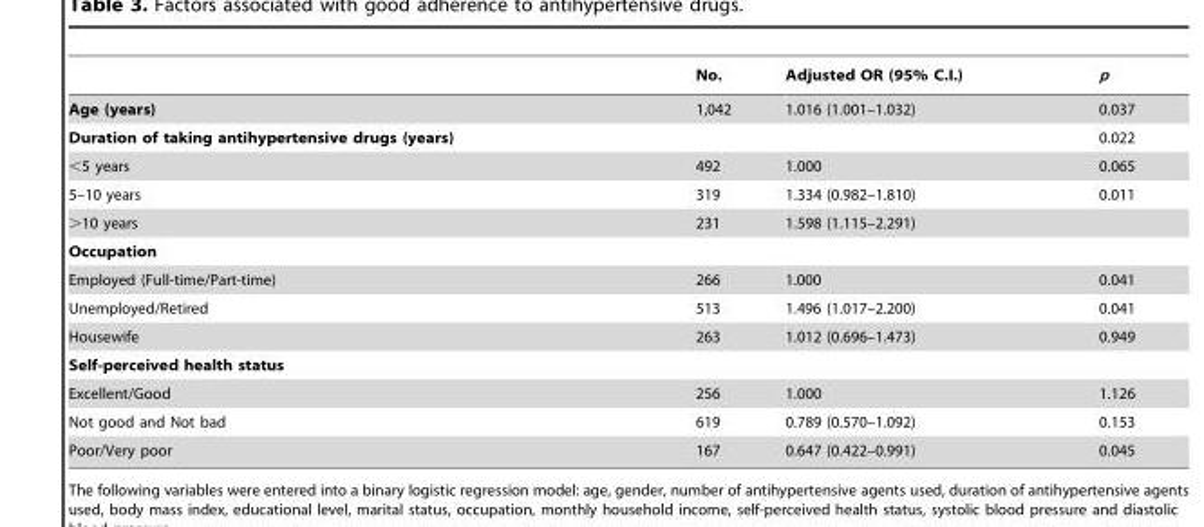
<table><thead><tr><td></td><td>No.</td><td>Adjusted OR (95% C.I.)</td><td>p</td></tr></thead><tbody><tr><td>Age (years)</td><td>1,042</td><td>1.016 (1.001–1.032)</td><td>0.037</td></tr><tr><td>Duration of taking antihypertensive drugs (years)</td><td></td><td></td><td>0.022</td></tr><tr><td>&lt;5 years</td><td>492</td><td>1.000</td><td>0.065</td></tr><tr><td>5–10 years</td><td>319</td><td>1.334 (0.982–1.810)</td><td>0.011</td></tr><tr><td>&gt;10 years</td><td>231</td><td>1.598 (1.115–2.291)</td><td></td></tr><tr><td colspan="4">Occupation</td></tr><tr><td>Employed (Full-time/Part-time)</td><td>266</td><td>1.000</td><td>0.041</td></tr><tr><td>Unemployed/Retired</td><td>513</td><td>1.496 (1.017–2.200)</td><td>0.041</td></tr><tr><td>Housewife</td><td>263</td><td>1.012 (0.696–1.473)</td><td>0.949</td></tr><tr><td colspan="4">Self-perceived health status</td></tr><tr><td>Excellent/Good</td><td>256</td><td>1.000</td><td>1.126</td></tr><tr><td>Not good and Not bad</td><td>619</td><td>0.789 (0.570–1.092)</td><td>0.153</td></tr><tr><td>Poor/Very poor</td><td>167</td><td>0.647 (0.422–0.991)</td><td>0.045</td></tr></tbody></table>